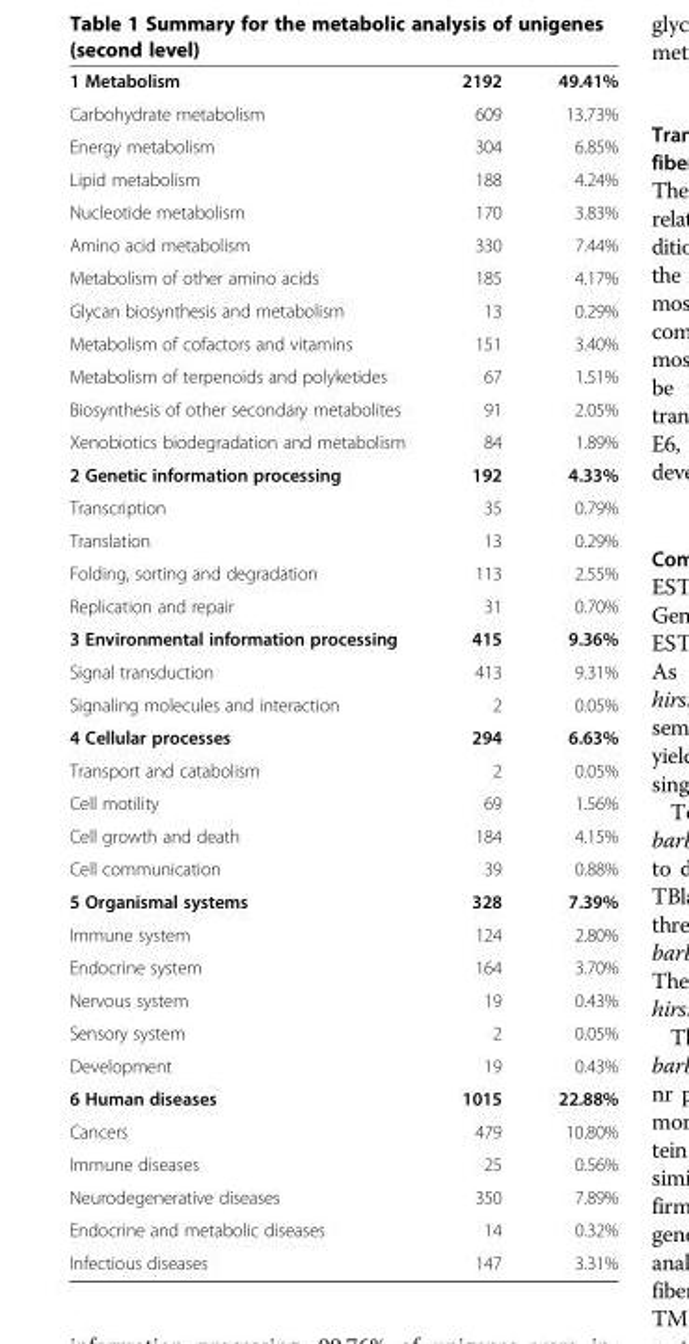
<table><tbody><tr><td>1 Metabolism</td><td>2192</td><td>49.41%</td></tr><tr><td>Carbohydrate metabolism</td><td>609</td><td>13.73%</td></tr><tr><td>Energy metabolism</td><td>304</td><td>6.85%</td></tr><tr><td>Lipid metabolism</td><td>188</td><td>4.24%</td></tr><tr><td>Nucleotide metabolism</td><td>170</td><td>3.83%</td></tr><tr><td>Amino acid metabolism</td><td>330</td><td>7.44%</td></tr><tr><td>Metabolism of other amino acids</td><td>185</td><td>4.17%</td></tr><tr><td>Glycan biosynthesis and metabolism</td><td>13</td><td>0.29%</td></tr><tr><td>Metabolism of cofactors and vitamins</td><td>151</td><td>3.40%</td></tr><tr><td>Metabolism of terpenoids and polyketides</td><td>67</td><td>1.51%</td></tr><tr><td>Biosynthesis of other secondary metabolites</td><td>91</td><td>2.05%</td></tr><tr><td>Xenobiotics biodegradation and metabolism</td><td>84</td><td>1.89%</td></tr><tr><td>2 Genetic information processing</td><td>192</td><td>4.33%</td></tr><tr><td>Transcription</td><td>35</td><td>0.79%</td></tr><tr><td>Translation</td><td>13</td><td>0.29%</td></tr><tr><td>Folding, sorting and degradation</td><td>113</td><td>2.55%</td></tr><tr><td>Replication and repair</td><td>31</td><td>0.70%</td></tr><tr><td>3 Environmental information processing</td><td>415</td><td>9.36%</td></tr><tr><td>Signal transduction</td><td>413</td><td>9.31%</td></tr><tr><td>Signaling molecules and interaction</td><td>2</td><td>0.05%</td></tr><tr><td>4 Cellular processes</td><td>294</td><td>6.63%</td></tr><tr><td>Transport and catabolism</td><td>2</td><td>0.05%</td></tr><tr><td>Cell motility</td><td>69</td><td>1.56%</td></tr><tr><td>Cell growth and death</td><td>184</td><td>4.15%</td></tr><tr><td>Cell communication</td><td>39</td><td>0.88%</td></tr><tr><td>5 Organismal systems</td><td>328</td><td>7.39%</td></tr><tr><td>Immune system</td><td>124</td><td>2.80%</td></tr><tr><td>Endocrine system</td><td>164</td><td>3.70%</td></tr><tr><td>Nervous system</td><td>19</td><td>0.43%</td></tr><tr><td>Sensory system</td><td>2</td><td>0.05%</td></tr><tr><td>Development</td><td>19</td><td>0.43%</td></tr><tr><td>6 Human diseases</td><td>1015</td><td>22.88%</td></tr><tr><td>Cancers</td><td>479</td><td>10.80%</td></tr><tr><td>Immune diseases</td><td>25</td><td>0.56%</td></tr><tr><td>Neurodegenerative diseases</td><td>350</td><td>7.89%</td></tr><tr><td>Endocrine and metabolic diseases</td><td>14</td><td>0.32%</td></tr><tr><td>Infectious diseases</td><td>147</td><td>3.31%</td></tr></tbody></table>